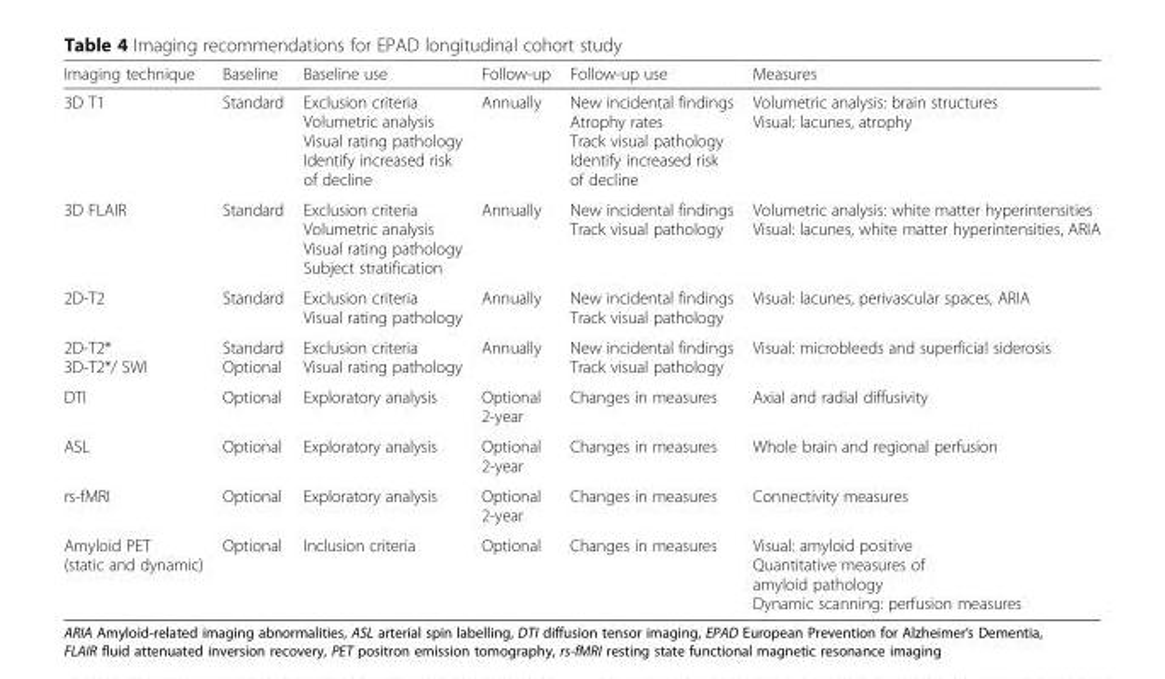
<table><thead><tr><td>Imaging technique</td><td>Baseline</td><td>Baseline use</td><td>Follow-up</td><td>Follow-up use</td><td>Measures</td></tr></thead><tbody><tr><td>3D T1</td><td>Standard</td><td>Exclusion criteria Volumetric analysis Visual rating pathology Identify increased risk of decline</td><td>Annually</td><td>New incidental findings Atrophy rates Track visual pathology Identify increased risk of decline</td><td>Volumetric analysis: brain structures Visual: lacunes, atrophy</td></tr><tr><td>3D FLAIR</td><td>Standard</td><td>Exclusion criteria Volumetric analysis Visual rating pathology Subject stratification</td><td>Annually</td><td>New incidental findings Track visual pathology</td><td>Volumetric analysis: white matter hyperintensities Visual: lacunes, white matter hyperintensities, ARIA</td></tr><tr><td>2D-T2</td><td>Standard</td><td>Exclusion criteria Visual rating pathology</td><td>Annually</td><td>New incidental findings Track visual pathology</td><td>Visual: lacunes, perivascular spaces, ARIA</td></tr><tr><td>2D-T2* 3D-T2*/ SWI</td><td>Standard Optional</td><td>Exclusion criteria Visual rating pathology</td><td>Annually</td><td>New incidental findings Track visual pathology</td><td>Visual: microbleeds and superficial siderosis</td></tr><tr><td>DTI</td><td>Optional</td><td>Exploratory analysis</td><td>Optional 2-year</td><td>Changes in measures</td><td>Axial and radial diffusivity</td></tr><tr><td>ASL</td><td>Optional</td><td>Exploratory analysis</td><td>Optional 2-year</td><td>Changes in measures</td><td>Whole brain and regional perfusion</td></tr><tr><td>rs-fMRI</td><td>Optional</td><td>Exploratory analysis</td><td>Optional 2-year</td><td>Changes in measures</td><td>Connectivity measures</td></tr><tr><td>Amyloid PET (static and dynamic)</td><td>Optional</td><td>Inclusion criteria</td><td>Optional</td><td>Changes in measures</td><td>Visual: amyloid positive Quantitative measures of amyloid pathology Dynamic scanning: perfusion measures</td></tr></tbody></table>